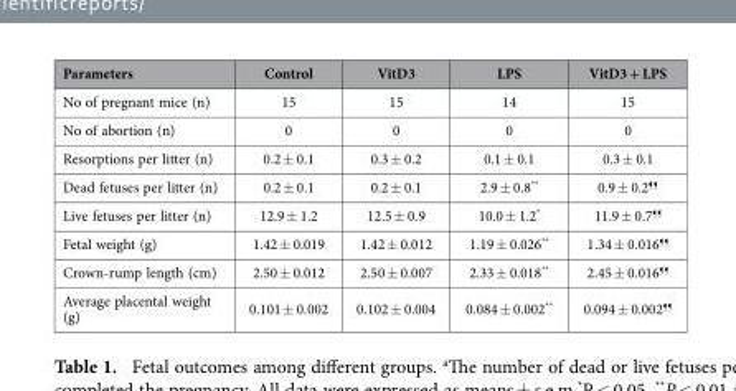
<table><thead><tr><td>Parameters</td><td>Control</td><td>VitD3</td><td>LPS</td><td>VitD3 + LPS</td></tr></thead><tbody><tr><td>No of pregnant mice (n)</td><td>15</td><td>15</td><td>14</td><td>15</td></tr><tr><td>No of abortion (n)</td><td>0</td><td>0</td><td>0</td><td>0</td></tr><tr><td>Resorptions per litter (n)</td><td>0.2 ± 0.1</td><td>0.3 ± 0.2</td><td>0.1 ± 0.1</td><td>0.3 ± 0.1</td></tr><tr><td>Dead fetuses per litter (n)</td><td>0.2 ± 0.1</td><td>0.2 ± 0.1</td><td>2.9 ± 0.8**</td><td>0.9 ± 0.2¶¶</td></tr><tr><td>Live fetuses per litter (n)</td><td>12.9 ± 1.2</td><td>12.5 ± 0.9</td><td>10.0 ± 1.2*</td><td>11.9 ± 0.7¶¶</td></tr><tr><td>Fetal weight (g)</td><td>1.42 ± 0.019</td><td>1.42 ± 0.012</td><td>1.19 ± 0.026**</td><td>1.34 ± 0.016¶¶</td></tr><tr><td>Crown-rump length (cm)</td><td>2.50 ± 0.012</td><td>2.50 ± 0.007</td><td>2.33 ± 0.018**</td><td>2.45 ± 0.016¶¶</td></tr><tr><td>Average placental weight (g)</td><td>0.101 ± 0.002</td><td>0.102 ± 0.004</td><td>0.084 ± 0.002**</td><td>0.094 ± 0.002¶¶</td></tr></tbody></table>